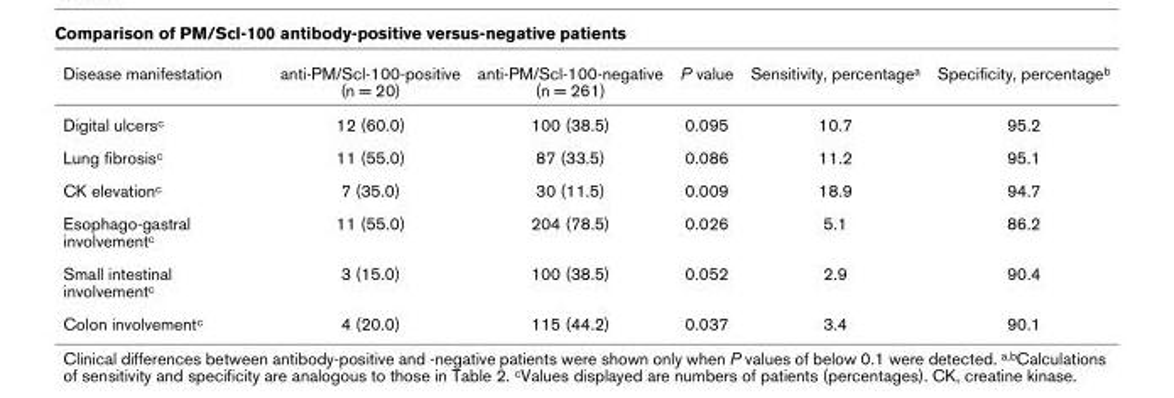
<table><thead><tr><td>Disease manifestation</td><td>anti-PM/Scl-100-positive (n = 20)</td><td>anti-PM/Scl-100-negative (n = 261)</td><td>P value</td><td>Sensitivity, percentage<sup>a</sup></td><td>Specificity, percentage<sup>b</sup></td></tr></thead><tbody><tr><td>Digital ulcers<sup>c</sup></td><td>12 (60.0)</td><td>100 (38.5)</td><td>0.095</td><td>10.7</td><td>95.2</td></tr><tr><td>Lung fibrosis<sup>c</sup></td><td>11 (55.0)</td><td>87 (33.5)</td><td>0.086</td><td>11.2</td><td>95.1</td></tr><tr><td>CK elevation<sup>c</sup></td><td>7 (35.0)</td><td>30 (11.5)</td><td>0.009</td><td>18.9</td><td>94.7</td></tr><tr><td>Esophago-gastral involvement<sup>c</sup></td><td>11 (55.0)</td><td>204 (78.5)</td><td>0.026</td><td>5.1</td><td>86.2</td></tr><tr><td>Small intestinal involvement<sup>c</sup></td><td>3 (15.0)</td><td>100 (38.5)</td><td>0.052</td><td>2.9</td><td>90.4</td></tr><tr><td>Colon involvement<sup>c</sup></td><td>4 (20.0)</td><td>115 (44.2)</td><td>0.037</td><td>3.4</td><td>90.1</td></tr></tbody></table>